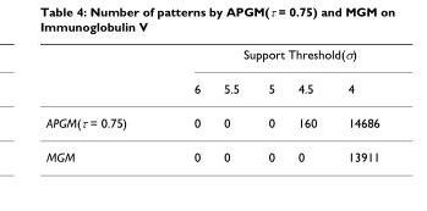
<table><thead><tr><td rowspan="2"></td><td colspan="5">Support Threshold(σ)</td></tr><tr><td>6</td><td>5.5</td><td>5</td><td>4.5</td><td>4</td></tr></thead><tbody><tr><td>APGM(τ = 0.75)</td><td>0</td><td>0</td><td>0</td><td>160</td><td>14686</td></tr><tr><td>MGM</td><td>0</td><td>0</td><td>0</td><td>0</td><td>13911</td></tr></tbody></table>